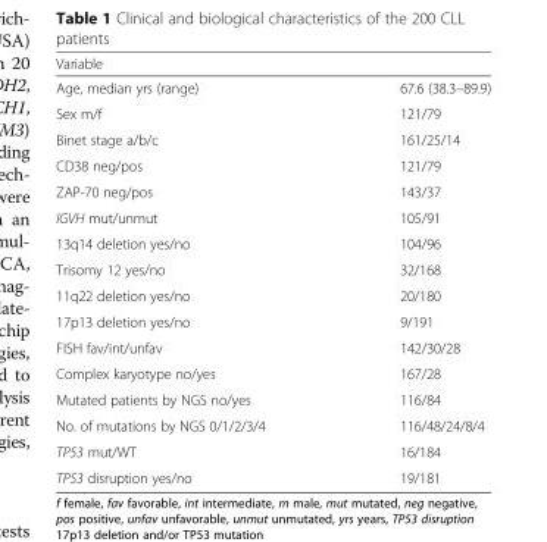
<table><thead><tr><td>Variable</td><td></td></tr></thead><tbody><tr><td>Age, median yrs (range)</td><td>67.6 (38.3–89.9)</td></tr><tr><td>Sex m/f</td><td>121/79</td></tr><tr><td>Binet stage a/b/c</td><td>161/25/14</td></tr><tr><td>CD38 neg/pos</td><td>121/79</td></tr><tr><td>ZAP-70 neg/pos</td><td>143/37</td></tr><tr><td>IGVH mut/unmut</td><td>105/91</td></tr><tr><td>13q14 deletion yes/no</td><td>104/96</td></tr><tr><td>Trisomy 12 yes/no</td><td>32/168</td></tr><tr><td>11q22 deletion yes/no</td><td>20/180</td></tr><tr><td>17p13 deletion yes/no</td><td>9/191</td></tr><tr><td>FISH fav/int/unfav</td><td>142/30/28</td></tr><tr><td>Complex karyotype no/yes</td><td>167/28</td></tr><tr><td>Mutated patients by NGS no/yes</td><td>116/84</td></tr><tr><td>No. of mutations by NGS 0/1/2/3/4</td><td>116/48/24/8/4</td></tr><tr><td>TP53 mut/WT</td><td>16/184</td></tr><tr><td>TP53 disruption yes/no</td><td>19/181</td></tr></tbody></table>